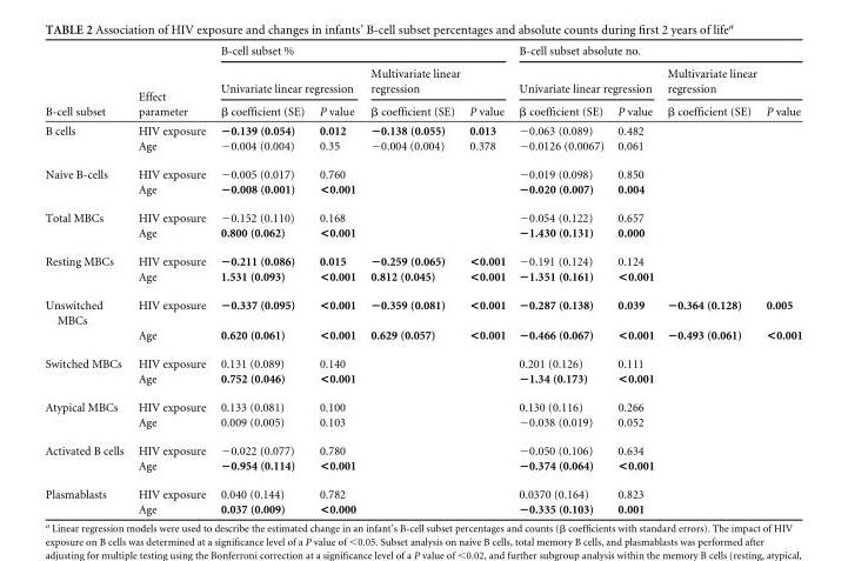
<table><thead><tr><td rowspan="3">B-cell subset</td><td rowspan="3">Effect parameter</td><td colspan="4">B-cell subset %</td><td colspan="4">B-cell subset absolute no.</td></tr><tr><td colspan="2">Univariate linear regression</td><td colspan="2">Multivariate linear regression</td><td colspan="2">Univariate linear regression</td><td colspan="2">Multivariate linear regression</td></tr><tr><td>β coefficient (SE)</td><td>P value</td><td>β coefficient (SE)</td><td>P value</td><td>β coefficient (SE)</td><td>P value</td><td>β coefficient (SE)</td><td>P value</td></tr></thead><tbody><tr><td rowspan="2">B cells</td><td>HIV exposure</td><td>−0.139 (0.054)</td><td>0.012</td><td>−0.138 (0.055)</td><td>0.013</td><td>−0.063 (0.089)</td><td>0.482</td><td></td><td></td></tr><tr><td>Age</td><td>−0.004 (0.004)</td><td>0.35</td><td>−0.004 (0.004)</td><td>0.378</td><td>−0.0126 (0.0067)</td><td>0.061</td><td></td><td></td></tr><tr><td rowspan="2">Naive B-cells</td><td>HIV exposure</td><td>−0.005 (0.017)</td><td>0.760</td><td></td><td></td><td>−0.019 (0.098)</td><td>0.850</td><td></td><td></td></tr><tr><td>Age</td><td>−0.008 (0.001)</td><td>&lt;0.001</td><td></td><td></td><td>−0.020 (0.007)</td><td>0.004</td><td></td><td></td></tr><tr><td rowspan="2">Total MBCs</td><td>HIV exposure</td><td>−0.152 (0.110)</td><td>0.168</td><td></td><td></td><td>−0.054 (0.122)</td><td>0.657</td><td></td><td></td></tr><tr><td>Age</td><td>0.800 (0.062)</td><td>&lt;0.001</td><td></td><td></td><td>−1.430 (0.131)</td><td>0.000</td><td></td><td></td></tr><tr><td rowspan="2">Resting MBCs</td><td>HIV exposure</td><td>−0.211 (0.086)</td><td>0.015</td><td>−0.259 (0.065)</td><td>&lt;0.001</td><td>−0.191 (0.124)</td><td>0.124</td><td></td><td></td></tr><tr><td>Age</td><td>1.531 (0.093)</td><td>&lt;0.001</td><td>0.812 (0.045)</td><td>&lt;0.001</td><td>−1.351 (0.161)</td><td>&lt;0.001</td><td></td><td></td></tr><tr><td rowspan="2">Unswitched MBCs</td><td>HIV exposure</td><td>−0.337 (0.095)</td><td>&lt;0.001</td><td>−0.359 (0.081)</td><td>&lt;0.001</td><td>−0.287 (0.138)</td><td>0.039</td><td>−0.364 (0.128)</td><td>0.005</td></tr><tr><td>Age</td><td>0.620 (0.061)</td><td>&lt;0.001</td><td>0.629 (0.057)</td><td>&lt;0.001</td><td>−0.466 (0.067)</td><td>&lt;0.001</td><td>−0.493 (0.061)</td><td>&lt;0.001</td></tr><tr><td rowspan="2">Switched MBCs</td><td>HIV exposure</td><td>0.131 (0.089)</td><td>0.140</td><td></td><td></td><td>0.201 (0.126)</td><td>0.111</td><td></td><td></td></tr><tr><td>Age</td><td>0.752 (0.046)</td><td>&lt;0.001</td><td></td><td></td><td>−1.34 (0.173)</td><td>&lt;0.001</td><td></td><td></td></tr><tr><td rowspan="2">Atypical MBCs</td><td>HIV exposure</td><td>0.133 (0.081)</td><td>0.100</td><td></td><td></td><td>0.130 (0.116)</td><td>0.266</td><td></td><td></td></tr><tr><td>Age</td><td>0.009 (0.005)</td><td>0.103</td><td></td><td></td><td>−0.038 (0.019)</td><td>0.052</td><td></td><td></td></tr><tr><td rowspan="2">Activated B cells</td><td>HIV exposure</td><td>−0.022 (0.077)</td><td>0.780</td><td></td><td></td><td>−0.050 (0.106)</td><td>0.634</td><td></td><td></td></tr><tr><td>Age</td><td>−0.954 (0.114)</td><td>&lt;0.001</td><td></td><td></td><td>−0.374 (0.064)</td><td>&lt;0.001</td><td></td><td></td></tr><tr><td rowspan="2">Plasmablasts</td><td>HIV exposure</td><td>0.040 (0.144)</td><td>0.782</td><td></td><td></td><td>0.0370 (0.164)</td><td>0.823</td><td></td><td></td></tr><tr><td>Age</td><td>0.037 (0.009)</td><td>&lt;0.000</td><td></td><td></td><td>−0.335 (0.103)</td><td>0.001</td><td></td><td></td></tr></tbody></table>